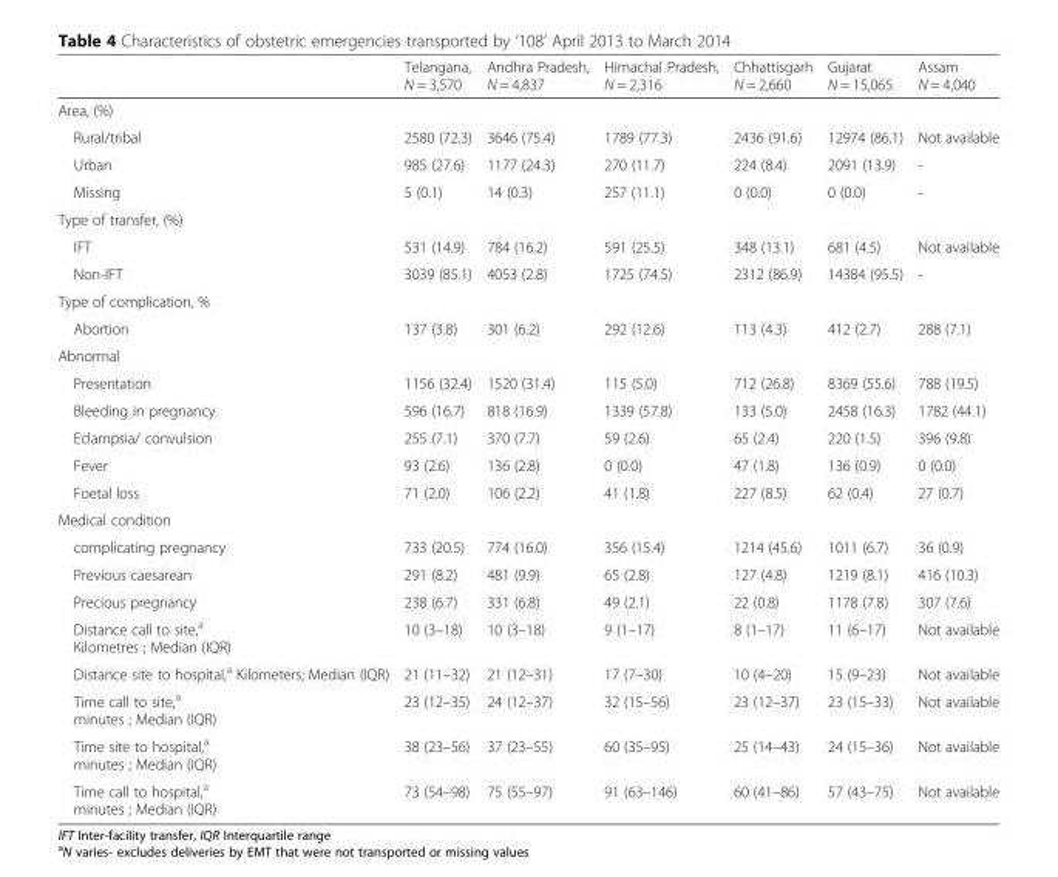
<table><thead><tr><td></td><td>Telangana, N = 3,570</td><td>Andhra Pradesh, N = 4,837</td><td>Himachal Pradesh, N = 2,316</td><td>Chhattisgarh N = 2,660</td><td>Gujarat N = 15,065</td><td>Assam N = 4,040</td></tr></thead><tbody><tr><td colspan="7">Area, (%)</td></tr><tr><td>Rural/tribal</td><td>2580 (72.3)</td><td>3646 (75.4)</td><td>1789 (77.3)</td><td>2436 (91.6)</td><td>12974 (86.1)</td><td>Not available</td></tr><tr><td>Urban</td><td>985 (27.6)</td><td>1177 (24.3)</td><td>270 (11.7)</td><td>224 (8.4)</td><td>2091 (13.9)</td><td>-</td></tr><tr><td>Missing</td><td>5 (0.1)</td><td>14 (0.3)</td><td>257 (11.1)</td><td>0 (0.0)</td><td>0 (0.0)</td><td>-</td></tr><tr><td colspan="7">Type of transfer, (%)</td></tr><tr><td>IFT</td><td>531 (14.9)</td><td>784 (16.2)</td><td>591 (25.5)</td><td>348 (13.1)</td><td>681 (4.5)</td><td>Not available</td></tr><tr><td>Non-IFT</td><td>3039 (85.1)</td><td>4053 (2.8)</td><td>1725 (74.5)</td><td>2312 (86.9)</td><td>14384 (95.5)</td><td>-</td></tr><tr><td colspan="7">Type of complication, %</td></tr><tr><td>Abortion</td><td>137 (3.8)</td><td>301 (6.2)</td><td>292 (12.6)</td><td>113 (4.3)</td><td>412 (2.7)</td><td>288 (7.1)</td></tr><tr><td colspan="7">Abnormal</td></tr><tr><td>Presentation</td><td>1156 (32.4)</td><td>1520 (31.4)</td><td>115 (5.0)</td><td>712 (26.8)</td><td>8369 (55.6)</td><td>788 (19.5)</td></tr><tr><td>Bleeding in pregnancy</td><td>596 (16.7)</td><td>818 (16.9)</td><td>1339 (57.8)</td><td>133 (5.0)</td><td>2458 (16.3)</td><td>1782 (44.1)</td></tr><tr><td>Eclampsia/ convulsion</td><td>255 (7.1)</td><td>370 (7.7)</td><td>59 (2.6)</td><td>65 (2.4)</td><td>220 (1.5)</td><td>396 (9.8)</td></tr><tr><td>Fever</td><td>93 (2.6)</td><td>136 (2.8)</td><td>0 (0.0)</td><td>47 (1.8)</td><td>136 (0.9)</td><td>0 (0.0)</td></tr><tr><td>Foetal loss</td><td>71 (2.0)</td><td>106 (2.2)</td><td>41 (1.8)</td><td>227 (8.5)</td><td>62 (0.4)</td><td>27 (0.7)</td></tr><tr><td colspan="7">Medical condition</td></tr><tr><td>complicating pregnancy</td><td>733 (20.5)</td><td>774 (16.0)</td><td>356 (15.4)</td><td>1214 (45.6)</td><td>1011 (6.7)</td><td>36 (0.9)</td></tr><tr><td>Previous caesarean</td><td>291 (8.2)</td><td>481 (9.9)</td><td>65 (2.8)</td><td>127 (4.8)</td><td>1219 (8.1)</td><td>416 (10.3)</td></tr><tr><td>Precious pregnancy</td><td>238 (6.7)</td><td>331 (6.8)</td><td>49 (2.1)</td><td>22 (0.8)</td><td>1178 (7.8)</td><td>307 (7.6)</td></tr><tr><td>Distance call to site,<sup>a</sup> Kilometres ; Median (IQR)</td><td>10 (3–18)</td><td>10 (3–18)</td><td>9 (1–17)</td><td>8 (1–17)</td><td>11 (6–17)</td><td>Not available</td></tr><tr><td>Distance site to hospital,<sup>a</sup> Kilometers; Median (IQR)</td><td>21 (11–32)</td><td>21 (12–31)</td><td>17 (7–30)</td><td>10 (4–20)</td><td>15 (9–23)</td><td>Not available</td></tr><tr><td>Time call to site,<sup>a</sup> minutes ; Median (IQR)</td><td>23 (12–35)</td><td>24 (12–37)</td><td>32 (15–56)</td><td>23 (12–37)</td><td>23 (15–33)</td><td>Not available</td></tr><tr><td>Time site to hospital,<sup>a</sup> minutes ; Median (IQR)</td><td>38 (23–56)</td><td>37 (23–55)</td><td>60 (35–95)</td><td>25 (14–43)</td><td>24 (15–36)</td><td>Not available</td></tr><tr><td>Time call to hospital,<sup>a</sup> minutes ; Median (IQR)</td><td>73 (54–98)</td><td>75 (55–97)</td><td>91 (63–146)</td><td>60 (41–86)</td><td>57 (43–75)</td><td>Not available</td></tr></tbody></table>